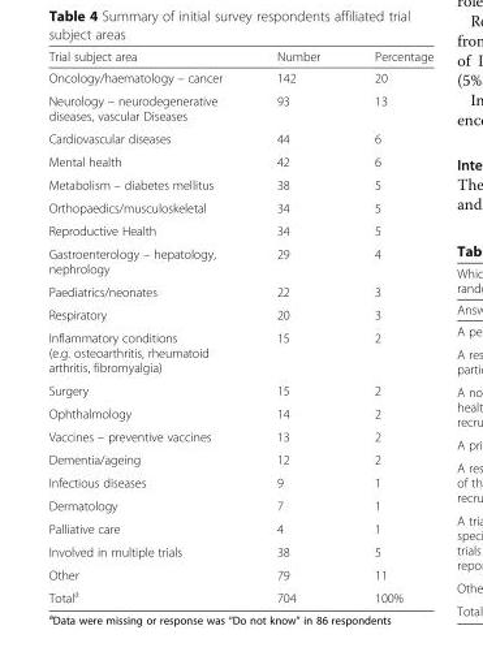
<table><thead><tr><td>Trial subject area</td><td>Number</td><td>Percentage</td></tr></thead><tbody><tr><td>Oncology/haematology – cancer</td><td>142</td><td>20</td></tr><tr><td>Neurology – neurodegenerative diseases, vascular Diseases</td><td>93</td><td>13</td></tr><tr><td>Cardiovascular diseases</td><td>44</td><td>6</td></tr><tr><td>Mental health</td><td>42</td><td>6</td></tr><tr><td>Metabolism – diabetes mellitus</td><td>38</td><td>5</td></tr><tr><td>Orthopaedics/musculoskeletal</td><td>34</td><td>5</td></tr><tr><td>Reproductive Health</td><td>34</td><td>5</td></tr><tr><td>Gastroenterology – hepatology, nephrology</td><td>29</td><td>4</td></tr><tr><td>Paediatrics/neonates</td><td>22</td><td>3</td></tr><tr><td>Respiratory</td><td>20</td><td>3</td></tr><tr><td>Inflammatory conditions (e.g. osteoarthritis, rheumatoid arthritis, fibromyalgia)</td><td>15</td><td>2</td></tr><tr><td>Surgery</td><td>15</td><td>2</td></tr><tr><td>Ophthalmology</td><td>14</td><td>2</td></tr><tr><td>Vaccines – preventive vaccines</td><td>13</td><td>2</td></tr><tr><td>Dementia/ageing</td><td>12</td><td>2</td></tr><tr><td>Infectious diseases</td><td>9</td><td>1</td></tr><tr><td>Dermatology</td><td>7</td><td>1</td></tr><tr><td>Palliative care</td><td>4</td><td>1</td></tr><tr><td>Involved in multiple trials</td><td>38</td><td>5</td></tr><tr><td>Other</td><td>79</td><td>11</td></tr><tr><td>Total<sup>a</sup></td><td>704</td><td>100%</td></tr></tbody></table>